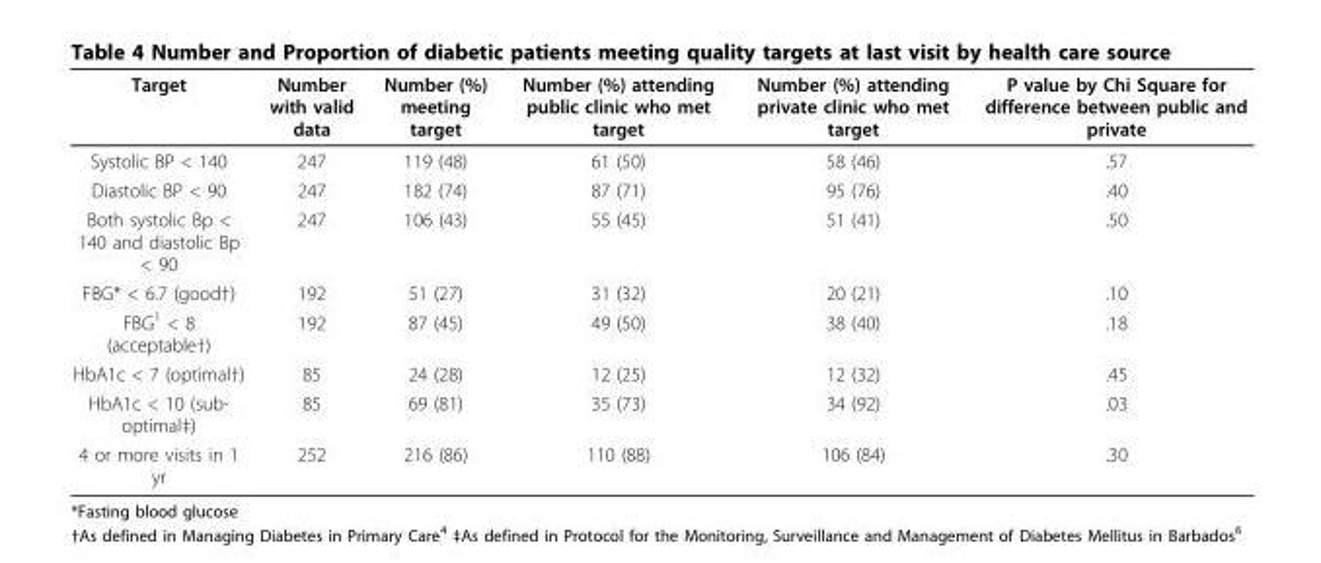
<table><thead><tr><td>Target</td><td>Number with valid data</td><td>Number (%) meeting target</td><td>Number (%) attending public clinic who met target</td><td>Number (%) attending private clinic who met target</td><td>P value by Chi Square for difference between public and private</td></tr></thead><tbody><tr><td>Systolic BP &lt; 140</td><td>247</td><td>119 (48)</td><td>61 (50)</td><td>58 (46)</td><td>.57</td></tr><tr><td>Diastolic BP &lt; 90</td><td>247</td><td>182 (74)</td><td>87 (71)</td><td>95 (76)</td><td>.40</td></tr><tr><td>Both systolic Bp &lt; 140 and diastolic Bp &lt; 90</td><td>247</td><td>106 (43)</td><td>55 (45)</td><td>51 (41)</td><td>.50</td></tr><tr><td>FBG* &lt; 6.7 (good†)</td><td>192</td><td>51 (27)</td><td>31 (32)</td><td>20 (21)</td><td>.10</td></tr><tr><td>FBG<sup>1</sup> &lt; 8 (acceptable†)</td><td>192</td><td>87 (45)</td><td>49 (50)</td><td>38 (40)</td><td>.18</td></tr><tr><td>HbA1c &lt; 7 (optimal†)</td><td>85</td><td>24 (28)</td><td>12 (25)</td><td>12 (32)</td><td>.45</td></tr><tr><td>HbA1c &lt; 10 (sub- optimal‡)</td><td>85</td><td>69 (81)</td><td>35 (73)</td><td>34 (92)</td><td>.03</td></tr><tr><td>4 or more visits in 1 yr</td><td>252</td><td>216 (86)</td><td>110 (88)</td><td>106 (84)</td><td>.30</td></tr></tbody></table>